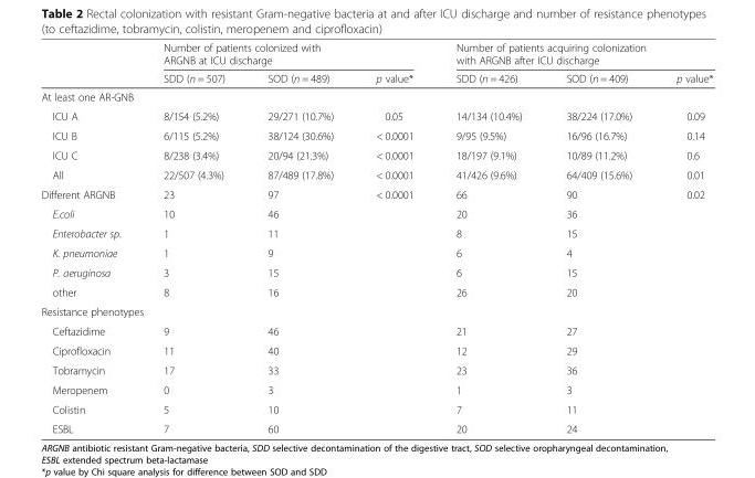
<table><thead><tr><td rowspan="2"></td><td colspan="3">Number of patients colonized with ARGNB at ICU discharge</td><td colspan="3">Number of patients acquiring colonization with ARGNB after ICU discharge</td></tr><tr><td>SDD (n = 507)</td><td>SOD (n = 489)</td><td>p value*</td><td>SDD (n = 426)</td><td>SOD (n = 409)</td><td>p value*</td></tr></thead><tbody><tr><td colspan="7">At least one AR-GNB</td></tr><tr><td>ICU A</td><td>8/154 (5.2%)</td><td>29/271 (10.7%)</td><td>0.05</td><td>14/134 (10.4%)</td><td>38/224 (17.0%)</td><td>0.09</td></tr><tr><td>ICU B</td><td>6/115 (5.2%)</td><td>38/124 (30.6%)</td><td>&lt; 0.0001</td><td>9/95 (9.5%)</td><td>16/96 (16.7%)</td><td>0.14</td></tr><tr><td>ICU C</td><td>8/238 (3.4%)</td><td>20/94 (21.3%)</td><td>&lt; 0.0001</td><td>18/197 (9.1%)</td><td>10/89 (11.2%)</td><td>0.6</td></tr><tr><td>All</td><td>22/507 (4.3%)</td><td>87/489 (17.8%)</td><td>&lt; 0.0001</td><td>41/426 (9.6%)</td><td>64/409 (15.6%)</td><td>0.01</td></tr><tr><td>Different ARGNB</td><td>23</td><td>97</td><td>&lt; 0.0001</td><td>66</td><td>90</td><td>0.02</td></tr><tr><td>E.coli</td><td>10</td><td>46</td><td></td><td>20</td><td>36</td><td></td></tr><tr><td>Enterobacter sp.</td><td>1</td><td>11</td><td></td><td>8</td><td>15</td><td></td></tr><tr><td>K. pneumoniae</td><td>1</td><td>9</td><td></td><td>6</td><td>4</td><td></td></tr><tr><td>P. aeruginosa</td><td>3</td><td>15</td><td></td><td>6</td><td>15</td><td></td></tr><tr><td>other</td><td>8</td><td>16</td><td></td><td>26</td><td>20</td><td></td></tr><tr><td colspan="7">Resistance phenotypes</td></tr><tr><td>Ceftazidime</td><td>9</td><td>46</td><td></td><td>21</td><td>27</td><td></td></tr><tr><td>Ciprofloxacin</td><td>11</td><td>40</td><td></td><td>12</td><td>29</td><td></td></tr><tr><td>Tobramycin</td><td>17</td><td>33</td><td></td><td>23</td><td>36</td><td></td></tr><tr><td>Meropenem</td><td>0</td><td>3</td><td></td><td>1</td><td>3</td><td></td></tr><tr><td>Colistin</td><td>5</td><td>10</td><td></td><td>7</td><td>11</td><td></td></tr><tr><td>ESBL</td><td>7</td><td>60</td><td></td><td>20</td><td>24</td><td></td></tr></tbody></table>